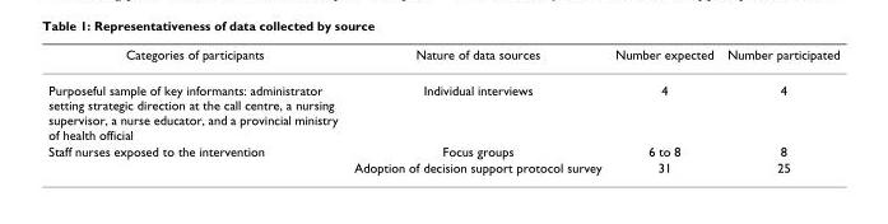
<table><thead><tr><td>Categories of participants</td><td>Nature of data sources</td><td>Number expected</td><td>Number participated</td></tr></thead><tbody><tr><td>Purposeful sample of key informants: administrator setting strategic direction at the call centre, a nursing supervisor, a nurse educator, and a provincial ministry of health official</td><td>Individual interviews</td><td>4</td><td>4</td></tr><tr><td rowspan="2">Staff nurses exposed to the intervention</td><td>Focus groups</td><td>6 to 8</td><td>8</td></tr><tr><td>Adoption of decision support protocol survey</td><td>31</td><td>25</td></tr></tbody></table>